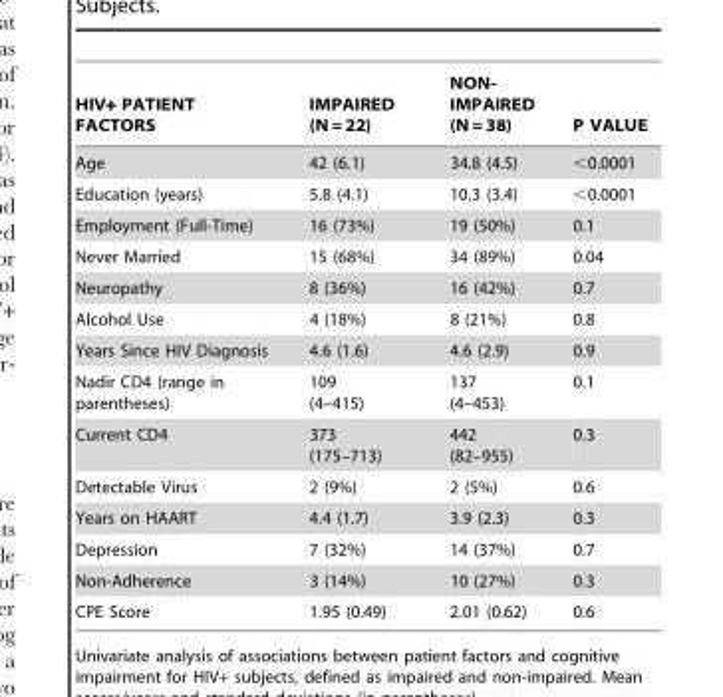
<table><thead><tr><td>HIV+ PATIENT FACTORS</td><td>IMPAIRED (N = 22)</td><td>NON- IMPAIRED (N = 38)</td><td>P VALUE</td></tr></thead><tbody><tr><td>Age</td><td>42 (6.1)</td><td>34.8 (4.5)</td><td>&lt;0.0001</td></tr><tr><td>Education (years)</td><td>5.8 (4.1)</td><td>10.3 (3.4)</td><td>&lt;0.0001</td></tr><tr><td>Employment (Full-Time)</td><td>16 (73%)</td><td>19 (50%)</td><td>0.1</td></tr><tr><td>Never Married</td><td>15 (68%)</td><td>34 (89%)</td><td>0.04</td></tr><tr><td>Neuropathy</td><td>8 (36%)</td><td>16 (42%)</td><td>0.7</td></tr><tr><td>Alcohol Use</td><td>4 (18%)</td><td>8 (21%)</td><td>0.8</td></tr><tr><td>Years Since HIV Diagnosis</td><td>4.6 (1.6)</td><td>4.6 (2.9)</td><td>0.9</td></tr><tr><td>Nadir CD4 (range in parentheses)</td><td>109 (4–415)</td><td>137 (4–453)</td><td>0.1</td></tr><tr><td>Current CD4</td><td>373 (175–713)</td><td>442 (82–955)</td><td>0.3</td></tr><tr><td>Detectable Virus</td><td>2 (9%)</td><td>2 (5%)</td><td>0.6</td></tr><tr><td>Years on HAART</td><td>4.4 (1.7)</td><td>3.9 (2.3)</td><td>0.3</td></tr><tr><td>Depression</td><td>7 (32%)</td><td>14 (37%)</td><td>0.7</td></tr><tr><td>Non-Adherence</td><td>3 (14%)</td><td>10 (27%)</td><td>0.3</td></tr><tr><td>CPE Score</td><td>1.95 (0.49)</td><td>2.01 (0.62)</td><td>0.6</td></tr></tbody></table>